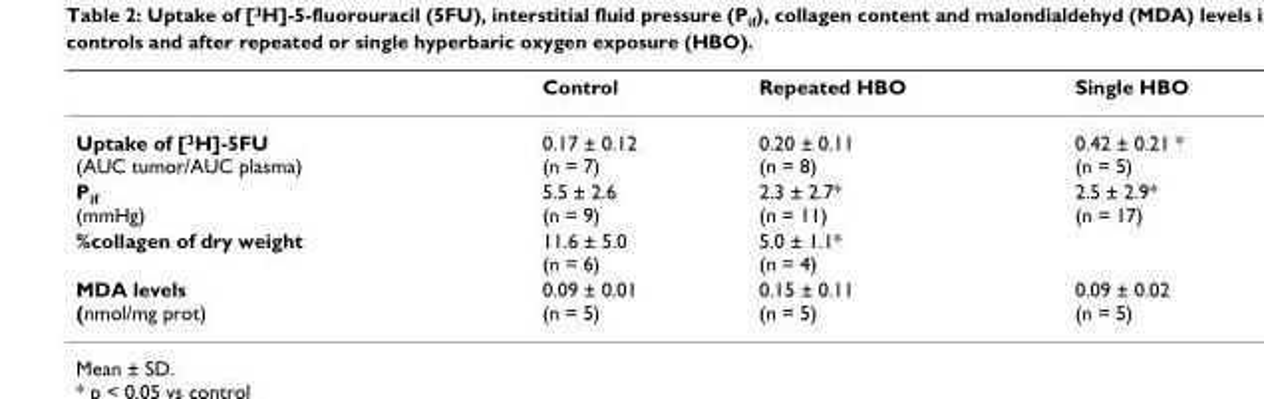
<table><thead><tr><td></td><td>Control</td><td>Repeated HBO</td><td>Single HBO</td></tr></thead><tbody><tr><td>Uptake of [<sup>3</sup>H]-5FU (AUC tumor/AUC plasma)</td><td>0.17 ± 0.12 (n = 7)</td><td>0.20 ± 0.11 (n = 8)</td><td>0.42 ± 0.21 * (n = 5)</td></tr><tr><td>P<sub>if</sub> (mmHg)</td><td>5.5 ± 2.6 (n = 9)</td><td>2.3 ± 2.7* (n = 11)</td><td>2.5 ± 2.9* (n = 17)</td></tr><tr><td>%collagen of dry weight</td><td>11.6 ± 5.0 (n = 6)</td><td>5.0 ± 1.1* (n = 4)</td><td></td></tr><tr><td>MDA levels (nmol/mg prot)</td><td>0.09 ± 0.01 (n = 5)</td><td>0.15 ± 0.11 (n = 5)</td><td>0.09 ± 0.02 (n = 5)</td></tr></tbody></table>